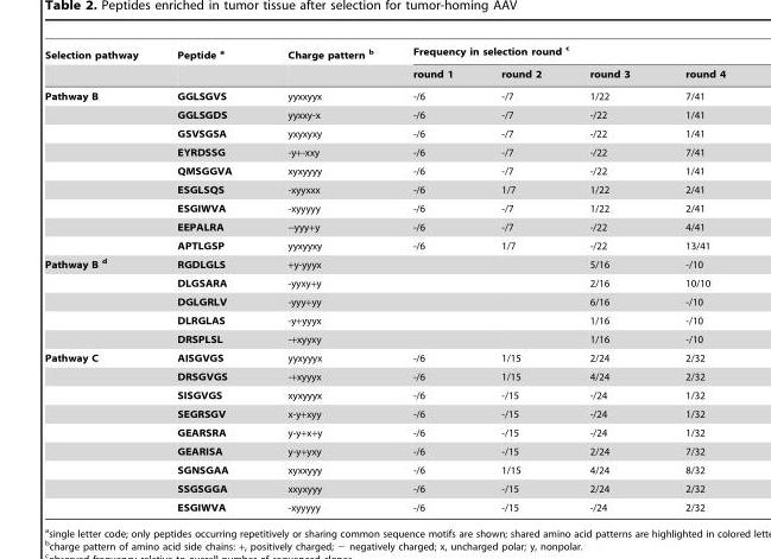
<table><thead><tr><td rowspan="2">Selection pathway</td><td rowspan="2">Peptide a</td><td rowspan="2">Charge pattern b</td><td colspan="4">Frequency in selection round <sup>c</sup></td></tr><tr><td>round 1</td><td>round 2</td><td>round 3</td><td>round 4</td></tr></thead><tbody><tr><td rowspan="9">Pathway B</td><td>GGLSGVS</td><td>yyxxyyx</td><td>-/6</td><td>-/7</td><td>1/22</td><td>7/41</td></tr><tr><td>GGLSGDS</td><td>yyxxy-x</td><td>-/6</td><td>-/7</td><td>-/22</td><td>1/41</td></tr><tr><td>GSVSGSA</td><td>yxyxyxy</td><td>-/6</td><td>-/7</td><td>-/22</td><td>1/41</td></tr><tr><td>EYRDSSG</td><td>-y+-xxy</td><td>-/6</td><td>-/7</td><td>-/22</td><td>7/41</td></tr><tr><td>QMSGGVA</td><td>xyxyyyy</td><td>-/6</td><td>-/7</td><td>-/22</td><td>1/41</td></tr><tr><td>ESGLSQS</td><td>-xyyxxx</td><td>-/6</td><td>1/7</td><td>1/22</td><td>2/41</td></tr><tr><td>ESGIWVA</td><td>-xyyyyy</td><td>-/6</td><td>-/7</td><td>1/22</td><td>2/41</td></tr><tr><td>EEPALRA</td><td>--yyy+y</td><td>-/6</td><td>-/7</td><td>-/22</td><td>4/41</td></tr><tr><td>APTLGSP</td><td>yyxyyxy</td><td>-/6</td><td>1/7</td><td>-/22</td><td>13/41</td></tr><tr><td rowspan="5">Pathway B d</td><td>RGDLGLS</td><td>+y-yyyx</td><td></td><td></td><td>5/16</td><td>-/10</td></tr><tr><td>DLGSARA</td><td>-yyxy+y</td><td></td><td></td><td>2/16</td><td>10/10</td></tr><tr><td>DGLGRLV</td><td>-yyy+yy</td><td></td><td></td><td>6/16</td><td>-/10</td></tr><tr><td>DLRGLAS</td><td>-y+yyyx</td><td></td><td></td><td>1/16</td><td>-/10</td></tr><tr><td>DRSPLSL</td><td>-+xyyxy</td><td></td><td></td><td>1/16</td><td>-/10</td></tr><tr><td rowspan="9">Pathway C</td><td>AISGVGS</td><td>yyxyyyx</td><td>-/6</td><td>1/15</td><td>2/24</td><td>2/32</td></tr><tr><td>DRSGVGS</td><td>-+xyyyx</td><td>-/6</td><td>1/15</td><td>4/24</td><td>2/32</td></tr><tr><td>SISGVGS</td><td>xyxyyyx</td><td>-/6</td><td>-/15</td><td>-/24</td><td>1/32</td></tr><tr><td>SEGRSGV</td><td>x-y+xyy</td><td>-/6</td><td>-/15</td><td>-/24</td><td>1/32</td></tr><tr><td>GEARSRA</td><td>y-y+x+y</td><td>-/6</td><td>-/15</td><td>-/24</td><td>1/32</td></tr><tr><td>GEARISA</td><td>y-y+yxy</td><td>-/6</td><td>-/15</td><td>2/24</td><td>7/32</td></tr><tr><td>SGNSGAA</td><td>xyxxyyy</td><td>-/6</td><td>1/15</td><td>4/24</td><td>8/32</td></tr><tr><td>SSGSGGA</td><td>xxyxyyy</td><td>-/6</td><td>-/15</td><td>2/24</td><td>2/32</td></tr><tr><td>ESGIWVA</td><td>-xyyyyy</td><td>-/6</td><td>-/15</td><td>-/24</td><td>2/32</td></tr></tbody></table>